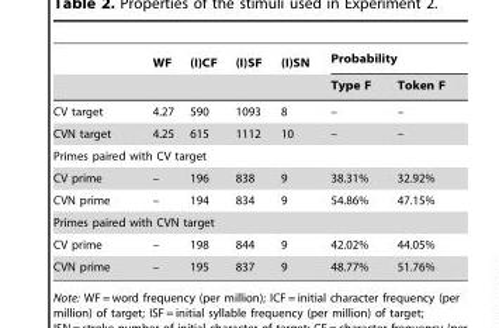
<table><thead><tr><td rowspan="2"></td><td rowspan="2">WF</td><td rowspan="2">(I)CF</td><td rowspan="2">(I)SF</td><td rowspan="2">(I)SN</td><td colspan="2">Probability</td></tr><tr><td>Type F</td><td>Token F</td></tr></thead><tbody><tr><td>CV target</td><td>4.27</td><td>590</td><td>1093</td><td>8</td><td>–</td><td>–</td></tr><tr><td>CVN target</td><td>4.25</td><td>615</td><td>1112</td><td>10</td><td>–</td><td>–</td></tr><tr><td colspan="7">Primes paired with CV target</td></tr><tr><td>CV prime</td><td>–</td><td>196</td><td>838</td><td>9</td><td>38.31%</td><td>32.92%</td></tr><tr><td>CVN prime</td><td>–</td><td>194</td><td>834</td><td>9</td><td>54.86%</td><td>47.15%</td></tr><tr><td colspan="7">Primes paired with CVN target</td></tr><tr><td>CV prime</td><td>–</td><td>198</td><td>844</td><td>9</td><td>42.02%</td><td>44.05%</td></tr><tr><td>CVN prime</td><td>–</td><td>195</td><td>837</td><td>9</td><td>48.77%</td><td>51.76%</td></tr></tbody></table>